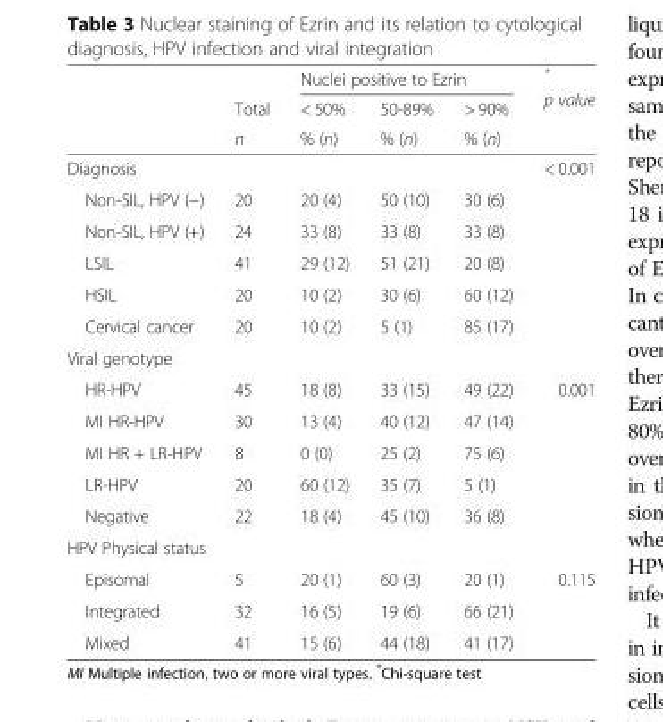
<table><thead><tr><td rowspan="3"></td><td rowspan="3">Total n</td><td colspan="3">Nuclei positive to Ezrin</td><td rowspan="3">* p value</td></tr><tr><td rowspan="2">&lt; 50% % (n)</td><td rowspan="2">50-89% % (n)</td><td rowspan="2">&gt; 90% % (n)</td></tr><tr></tr></thead><tbody><tr><td colspan="5">Diagnosis</td><td rowspan="6">&lt; 0.001</td></tr><tr><td>Non-SIL, HPV (−)</td><td>20</td><td>20 (4)</td><td>50 (10)</td><td>30 (6)</td></tr><tr><td>Non-SIL, HPV (+)</td><td>24</td><td>33 (8)</td><td>33 (8)</td><td>33 (8)</td></tr><tr><td>LSIL</td><td>41</td><td>29 (12)</td><td>51 (21)</td><td>20 (8)</td></tr><tr><td>HSIL</td><td>20</td><td>10 (2)</td><td>30 (6)</td><td>60 (12)</td></tr><tr><td>Cervical cancer</td><td>20</td><td>10 (2)</td><td>5 (1)</td><td>85 (17)</td></tr><tr><td colspan="6">Viral genotype</td></tr><tr><td>HR-HPV</td><td>45</td><td>18 (8)</td><td>33 (15)</td><td>49 (22)</td><td rowspan="5">0.001</td></tr><tr><td>MI HR-HPV</td><td>30</td><td>13 (4)</td><td>40 (12)</td><td>47 (14)</td></tr><tr><td>MI HR + LR-HPV</td><td>8</td><td>0 (0)</td><td>25 (2)</td><td>75 (6)</td></tr><tr><td>LR-HPV</td><td>20</td><td>60 (12)</td><td>35 (7)</td><td>5 (1)</td></tr><tr><td>Negative</td><td>22</td><td>18 (4)</td><td>45 (10)</td><td>36 (8)</td></tr><tr><td colspan="6">HPV Physical status</td></tr><tr><td>Episomal</td><td>5</td><td>20 (1)</td><td>60 (3)</td><td>20 (1)</td><td rowspan="3">0.115</td></tr><tr><td>Integrated</td><td>32</td><td>16 (5)</td><td>19 (6)</td><td>66 (21)</td></tr><tr><td>Mixed</td><td>41</td><td>15 (6)</td><td>44 (18)</td><td>41 (17)</td></tr></tbody></table>